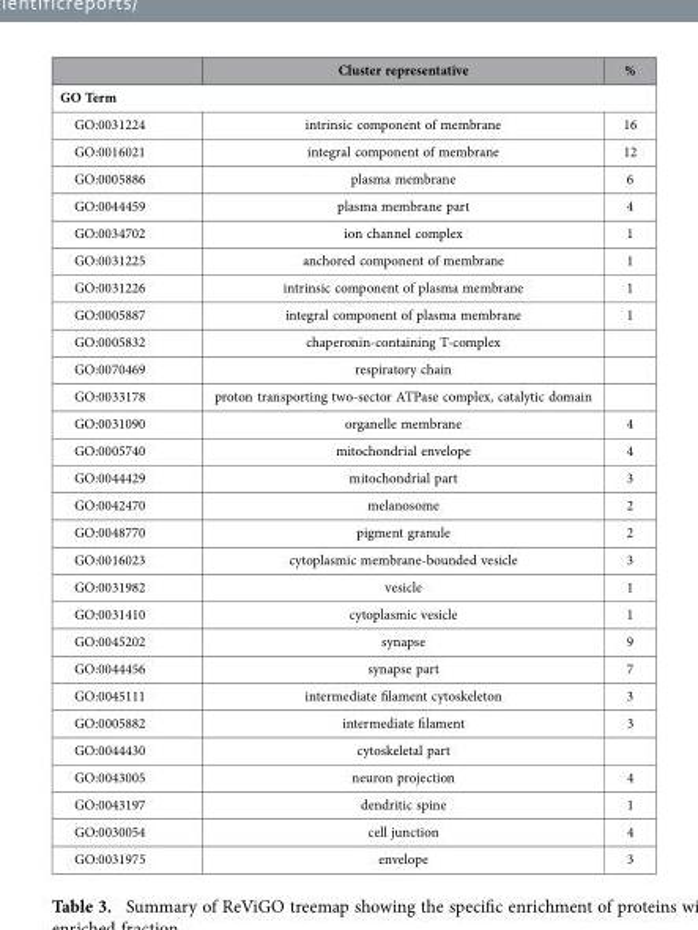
<table><thead><tr><td></td><td>Cluster representative</td><td>%</td></tr></thead><tbody><tr><td colspan="3">GO Term</td></tr><tr><td>GO:0031224</td><td>intrinsic component of membrane</td><td>16</td></tr><tr><td>GO:0016021</td><td>integral component of membrane</td><td>12</td></tr><tr><td>GO:0005886</td><td>plasma membrane</td><td>6</td></tr><tr><td>GO:0044459</td><td>plasma membrane part</td><td>4</td></tr><tr><td>GO:0034702</td><td>ion channel complex</td><td>1</td></tr><tr><td>GO:0031225</td><td>anchored component of membrane</td><td>1</td></tr><tr><td>GO:0031226</td><td>intrinsic component of plasma membrane</td><td>1</td></tr><tr><td>GO:0005887</td><td>integral component of plasma membrane</td><td>1</td></tr><tr><td>GO:0005832</td><td>chaperonin-containing T-complex</td><td></td></tr><tr><td>GO:0070469</td><td>respiratory chain</td><td></td></tr><tr><td>GO:0033178</td><td>proton transporting two-sector ATPase complex, catalytic domain</td><td></td></tr><tr><td>GO:0031090</td><td>organelle membrane</td><td>4</td></tr><tr><td>GO:0005740</td><td>mitochondrial envelope</td><td>4</td></tr><tr><td>GO:0044429</td><td>mitochondrial part</td><td>3</td></tr><tr><td>GO:0042470</td><td>melanosome</td><td>2</td></tr><tr><td>GO:0048770</td><td>pigment granule</td><td>2</td></tr><tr><td>GO:0016023</td><td>cytoplasmic membrane-bounded vesicle</td><td>3</td></tr><tr><td>GO:0031982</td><td>vesicle</td><td>1</td></tr><tr><td>GO:0031410</td><td>cytoplasmic vesicle</td><td>1</td></tr><tr><td>GO:0045202</td><td>synapse</td><td>9</td></tr><tr><td>GO:0044456</td><td>synapse part</td><td>7</td></tr><tr><td>GO:0045111</td><td>intermediate filament cytoskeleton</td><td>3</td></tr><tr><td>GO:0005882</td><td>intermediate filament</td><td>3</td></tr><tr><td>GO:0044430</td><td>cytoskeletal part</td><td></td></tr><tr><td>GO:0043005</td><td>neuron projection</td><td>4</td></tr><tr><td>GO:0043197</td><td>dendritic spine</td><td>1</td></tr><tr><td>GO:0030054</td><td>cell junction</td><td>4</td></tr><tr><td>GO:0031975</td><td>envelope</td><td>3</td></tr></tbody></table>